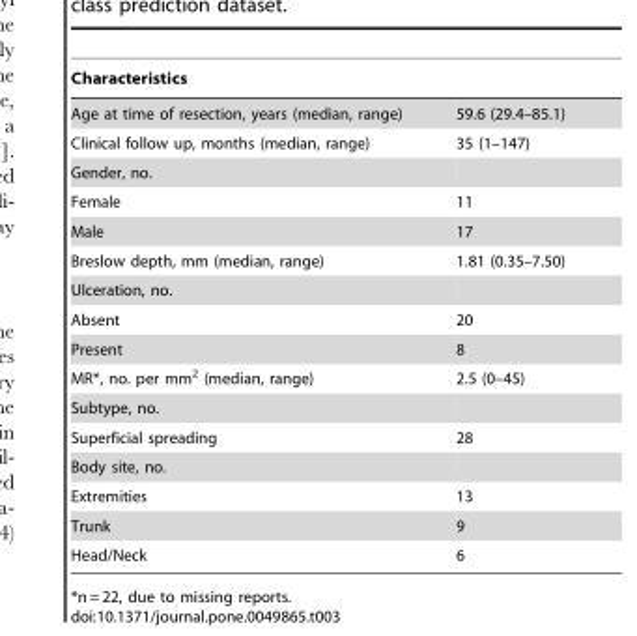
<table><thead><tr><td colspan="2">Characteristics</td></tr><tr><td>Age at time of resection, years (median, range)</td><td>59.6 (29.4–85.1)</td></tr></thead><tbody><tr><td>Clinical follow up, months (median, range)</td><td>35 (1–147)</td></tr><tr><td colspan="2">Gender, no.</td></tr><tr><td>Female</td><td>11</td></tr><tr><td>Male</td><td>17</td></tr><tr><td>Breslow depth, mm (median, range)</td><td>1.81 (0.35–7.50)</td></tr><tr><td colspan="2">Ulceration, no.</td></tr><tr><td>Absent</td><td>20</td></tr><tr><td>Present</td><td>8</td></tr><tr><td>MR*, no. per mm<sup>2</sup> (median, range)</td><td>2.5 (0–45)</td></tr><tr><td colspan="2">Subtype, no.</td></tr><tr><td>Superficial spreading</td><td>28</td></tr><tr><td colspan="2">Body site, no.</td></tr><tr><td>Extremities</td><td>13</td></tr><tr><td>Trunk</td><td>9</td></tr><tr><td>Head/Neck</td><td>6</td></tr></tbody></table>